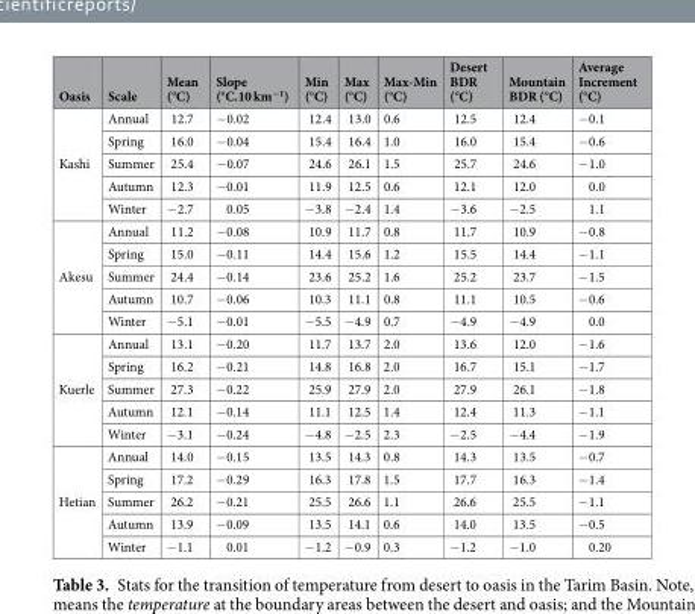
<table><thead><tr><td>Oasis</td><td>Scale</td><td>Mean (°C)</td><td>Slope (°C.10 km<sup>−1</sup>)</td><td>Min (°C)</td><td>Max (°C)</td><td>Max-Min (°C)</td><td>Desert BDR (°C)</td><td>Mountain BDR (°C)</td><td>Average Increment (°C)</td></tr></thead><tbody><tr><td rowspan="5">Kashi</td><td>Annual</td><td>12.7</td><td>−0.02</td><td>12.4</td><td>13.0</td><td>0.6</td><td>12.5</td><td>12.4</td><td>−0.1</td></tr><tr><td>Spring</td><td>16.0</td><td>−0.04</td><td>15.4</td><td>16.4</td><td>1.0</td><td>16.0</td><td>15.4</td><td>−0.6</td></tr><tr><td>Summer</td><td>25.4</td><td>−0.07</td><td>24.6</td><td>26.1</td><td>1.5</td><td>25.7</td><td>24.6</td><td>−1.0</td></tr><tr><td>Autumn</td><td>12.3</td><td>−0.01</td><td>11.9</td><td>12.5</td><td>0.6</td><td>12.1</td><td>12.0</td><td>0.0</td></tr><tr><td>Winter</td><td>−2.7</td><td>0.05</td><td>−3.8</td><td>−2.4</td><td>1.4</td><td>−3.6</td><td>−2.5</td><td>1.1</td></tr><tr><td rowspan="5">Akesu</td><td>Annual</td><td>11.2</td><td>−0.08</td><td>10.9</td><td>11.7</td><td>0.8</td><td>11.7</td><td>10.9</td><td>−0.8</td></tr><tr><td>Spring</td><td>15.0</td><td>−0.11</td><td>14.4</td><td>15.6</td><td>1.2</td><td>15.5</td><td>14.4</td><td>−1.1</td></tr><tr><td>Summer</td><td>24.4</td><td>−0.14</td><td>23.6</td><td>25.2</td><td>1.6</td><td>25.2</td><td>23.7</td><td>−1.5</td></tr><tr><td>Autumn</td><td>10.7</td><td>−0.06</td><td>10.3</td><td>11.1</td><td>0.8</td><td>11.1</td><td>10.5</td><td>−0.6</td></tr><tr><td>Winter</td><td>−5.1</td><td>−0.01</td><td>−5.5</td><td>−4.9</td><td>0.7</td><td>−4.9</td><td>−4.9</td><td>0.0</td></tr><tr><td rowspan="5">Kuerle</td><td>Annual</td><td>13.1</td><td>−0.20</td><td>11.7</td><td>13.7</td><td>2.0</td><td>13.6</td><td>12.0</td><td>−1.6</td></tr><tr><td>Spring</td><td>16.2</td><td>−0.21</td><td>14.8</td><td>16.8</td><td>2.0</td><td>16.7</td><td>15.1</td><td>−1.7</td></tr><tr><td>Summer</td><td>27.3</td><td>−0.22</td><td>25.9</td><td>27.9</td><td>2.0</td><td>27.9</td><td>26.1</td><td>−1.8</td></tr><tr><td>Autumn</td><td>12.1</td><td>−0.14</td><td>11.1</td><td>12.5</td><td>1.4</td><td>12.4</td><td>11.3</td><td>−1.1</td></tr><tr><td>Winter</td><td>−3.1</td><td>−0.24</td><td>−4.8</td><td>−2.5</td><td>2.3</td><td>−2.5</td><td>−4.4</td><td>−1.9</td></tr><tr><td rowspan="5">Hetian</td><td>Annual</td><td>14.0</td><td>−0.15</td><td>13.5</td><td>14.3</td><td>0.8</td><td>14.3</td><td>13.5</td><td>−0.7</td></tr><tr><td>Spring</td><td>17.2</td><td>−0.29</td><td>16.3</td><td>17.8</td><td>1.5</td><td>17.7</td><td>16.3</td><td>−1.4</td></tr><tr><td>Summer</td><td>26.2</td><td>−0.21</td><td>25.5</td><td>26.6</td><td>1.1</td><td>26.6</td><td>25.5</td><td>−1.1</td></tr><tr><td>Autumn</td><td>13.9</td><td>−0.09</td><td>13.5</td><td>14.1</td><td>0.6</td><td>14.0</td><td>13.5</td><td>−0.5</td></tr><tr><td>Winter</td><td>−1.1</td><td>0.01</td><td>−1.2</td><td>−0.9</td><td>0.3</td><td>−1.2</td><td>−1.0</td><td>0.20</td></tr></tbody></table>